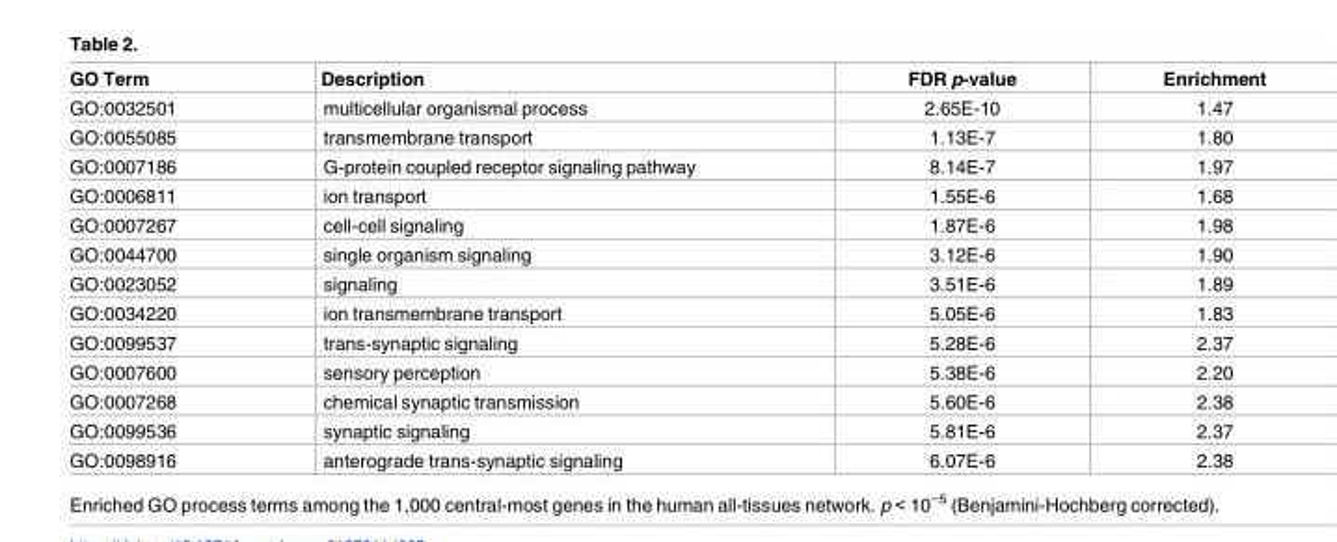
<table><thead><tr><td>GO Term</td><td>Description</td><td>FDR p-value</td><td>Enrichment</td></tr></thead><tbody><tr><td>GO:0032501</td><td>multicellular organismal process</td><td>2.65E-10</td><td>1.47</td></tr><tr><td>GO:0055085</td><td>transmembrane transport</td><td>1.13E-7</td><td>1.80</td></tr><tr><td>GO:0007186</td><td>G-protein coupled receptor signaling pathway</td><td>8.14E-7</td><td>1.97</td></tr><tr><td>GO:0006811</td><td>ion transport</td><td>1.55E-6</td><td>1.68</td></tr><tr><td>GO:0007267</td><td>cell-cell signaling</td><td>1.87E-6</td><td>1.98</td></tr><tr><td>GO:0044700</td><td>single organism signaling</td><td>3.12E-6</td><td>1.90</td></tr><tr><td>GO:0023052</td><td>signaling</td><td>3.51E-6</td><td>1.89</td></tr><tr><td>GO:0034220</td><td>ion transmembrane transport</td><td>5.05E-6</td><td>1.83</td></tr><tr><td>GO:0099537</td><td>trans-synaptic signaling</td><td>5.28E-6</td><td>2.37</td></tr><tr><td>GO:0007600</td><td>sensory perception</td><td>5.38E-6</td><td>2.20</td></tr><tr><td>GO:0007268</td><td>chemical synaptic transmission</td><td>5.60E-6</td><td>2.38</td></tr><tr><td>GO:0099536</td><td>synaptic signaling</td><td>5.81E-6</td><td>2.37</td></tr><tr><td>GO:0098916</td><td>anterograde trans-synaptic signaling</td><td>6.07E-6</td><td>2.38</td></tr></tbody></table>